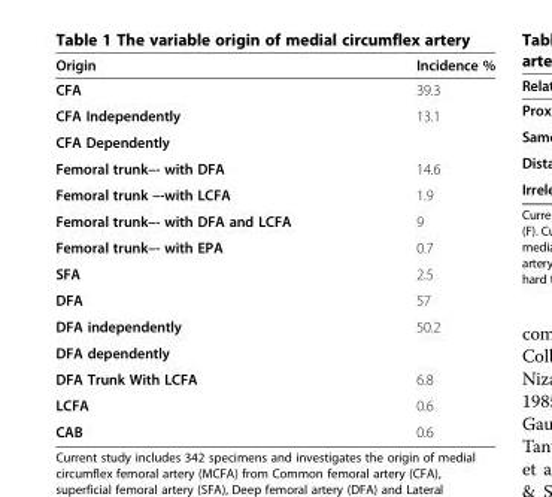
<table><thead><tr><td>Origin</td><td>Incidence %</td></tr></thead><tbody><tr><td>CFA</td><td>39.3</td></tr><tr><td>CFA Independently</td><td>13.1</td></tr><tr><td colspan="2">CFA Dependently</td></tr><tr><td>Femoral trunk–- with DFA</td><td>14.6</td></tr><tr><td>Femoral trunk –-with LCFA</td><td>1.9</td></tr><tr><td>Femoral trunk–- with DFA and LCFA</td><td>9</td></tr><tr><td>Femoral trunk–- with EPA</td><td>0.7</td></tr><tr><td>SFA</td><td>2.5</td></tr><tr><td>DFA</td><td>57</td></tr><tr><td>DFA independently</td><td>50.2</td></tr><tr><td colspan="2">DFA dependently</td></tr><tr><td>DFA Trunk With LCFA</td><td>6.8</td></tr><tr><td>LCFA</td><td>0.6</td></tr><tr><td>CAB</td><td>0.6</td></tr></tbody></table>